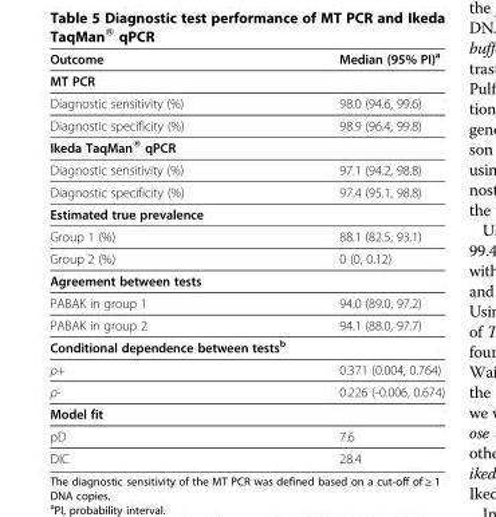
<table><thead><tr><td>Outcome</td><td>Median (95% PI)<sup>a</sup></td></tr></thead><tbody><tr><td colspan="2">MT PCR</td></tr><tr><td>Diagnostic sensitivity (%)</td><td>98.0 (94.6, 99.6)</td></tr><tr><td>Diagnostic specificity (%)</td><td>98.9 (96.4, 99.8)</td></tr><tr><td colspan="2">Ikeda TaqMan® qPCR</td></tr><tr><td>Diagnostic sensitivity (%)</td><td>97.1 (94.2, 98.8)</td></tr><tr><td>Diagnostic specificity (%)</td><td>97.4 (95.1, 98.8)</td></tr><tr><td colspan="2">Estimated true prevalence</td></tr><tr><td>Group 1 (%)</td><td>88.1 (82.5, 93.1)</td></tr><tr><td>Group 2 (%)</td><td>0 (0, 0.12)</td></tr><tr><td colspan="2">Agreement between tests</td></tr><tr><td>PABAK in group 1</td><td>94.0 (89.0, 97.2)</td></tr><tr><td>PABAK in group 2</td><td>94.1 (88.0, 97.7)</td></tr><tr><td colspan="2">Conditional dependence between tests<sup>b</sup></td></tr><tr><td>ρ+</td><td>0.371 (0.004, 0.764)</td></tr><tr><td>ρ-</td><td>0.226 (-0.006, 0.674)</td></tr><tr><td colspan="2">Model fit</td></tr><tr><td>pD</td><td>7.6</td></tr><tr><td>DIC</td><td>28.4</td></tr></tbody></table>